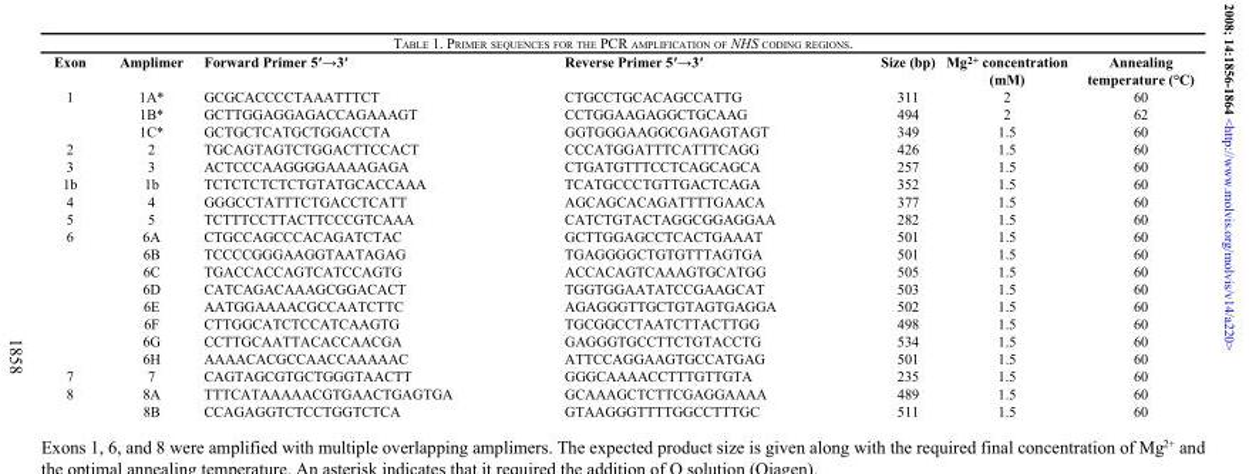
<table><thead><tr><td>Exon</td><td>Amplimer</td><td>Forward Primer 5′→3′</td><td>Reverse Primer 5′→3′</td><td>Size (bp)</td><td>Mg<sup>2+</sup> concentration (mM)</td><td>Annealing temperature (°C)</td></tr></thead><tbody><tr><td rowspan="3">1</td><td>1A*</td><td>GCGCACCCCTAAATTTCT</td><td>CTGCCTGCACAGCCATTG</td><td>311</td><td>2</td><td>60</td></tr><tr><td>1B*</td><td>GCTTGGAGGAGACCAGAAAGT</td><td>CCTGGAAGAGGCTGCAAG</td><td>494</td><td>2</td><td>62</td></tr><tr><td>1C*</td><td>GCTGCTCATGCTGGACCTA</td><td>GGTGGGAAGGCGAGAGTAGT</td><td>349</td><td>1.5</td><td>60</td></tr><tr><td>2</td><td>2</td><td>TGCAGTAGTCTGGACTTCCACT</td><td>CCCATGGATTTCATTTCAGG</td><td>426</td><td>1.5</td><td>60</td></tr><tr><td>3</td><td>3</td><td>ACTCCCAAGGGGAAAAGAGA</td><td>CTGATGTTTCCTCAGCAGCA</td><td>257</td><td>1.5</td><td>60</td></tr><tr><td>1b</td><td>1b</td><td>TCTCTCTCTCTGTATGCACCAAA</td><td>TCATGCCCTGTTGACTCAGA</td><td>352</td><td>1.5</td><td>60</td></tr><tr><td>4</td><td>4</td><td>GGGCCTATTTCTGACCTCATT</td><td>AGCAGCACAGATTTTGAACA</td><td>377</td><td>1.5</td><td>60</td></tr><tr><td>5</td><td>5</td><td>TCTTTCCTTACTTCCCGTCAAA</td><td>CATCTGTACTAGGCGGAGGAA</td><td>282</td><td>1.5</td><td>60</td></tr><tr><td rowspan="8">6</td><td>6A</td><td>CTGCCAGCCCACAGATCTAC</td><td>GCTTGGAGCCTCACTGAAAT</td><td>501</td><td>1.5</td><td>60</td></tr><tr><td>6B</td><td>TCCCCGGGAAGGTAATAGAG</td><td>TGAGGGGCTGTGTTTAGTGA</td><td>501</td><td>1.5</td><td>60</td></tr><tr><td>6C</td><td>TGACCACCAGTCATCCAGTG</td><td>ACCACAGTCAAAGTGCATGG</td><td>505</td><td>1.5</td><td>60</td></tr><tr><td>6D</td><td>CATCAGACAAAGCGGACACT</td><td>TGGTGGAATATCCGAAGCAT</td><td>503</td><td>1.5</td><td>60</td></tr><tr><td>6E</td><td>AATGGAAAACGCCAATCTTC</td><td>AGAGGGTTGCTGTAGTGAGGA</td><td>502</td><td>1.5</td><td>60</td></tr><tr><td>6F</td><td>CTTGGCATCTCCATCAAGTG</td><td>TGCGGCCTAATCTTACTTGG</td><td>498</td><td>1.5</td><td>60</td></tr><tr><td>6G</td><td>CCTTGCAATTACACCAACGA</td><td>GAGGGTGCCTTCTGTACCTG</td><td>534</td><td>1.5</td><td>60</td></tr><tr><td>6H</td><td>AAAACACGCCAACCAAAAAC</td><td>ATTCCAGGAAGTGCCATGAG</td><td>501</td><td>1.5</td><td>60</td></tr><tr><td>7</td><td>7</td><td>CAGTAGCGTGCTGGGTAACTT</td><td>GGGCAAAACCTTTGTTGTA</td><td>235</td><td>1.5</td><td>60</td></tr><tr><td rowspan="2">8</td><td>8A</td><td>TTTCATAAAAACGTGAACTGAGTGA</td><td>GCAAAGCTCTTCGAGGAAAA</td><td>489</td><td>1.5</td><td>60</td></tr><tr><td>8B</td><td>CCAGAGGTCTCCTGGTCTCA</td><td>GTAAGGGTTTTGGCCTTTGC</td><td>511</td><td>1.5</td><td>60</td></tr></tbody></table>